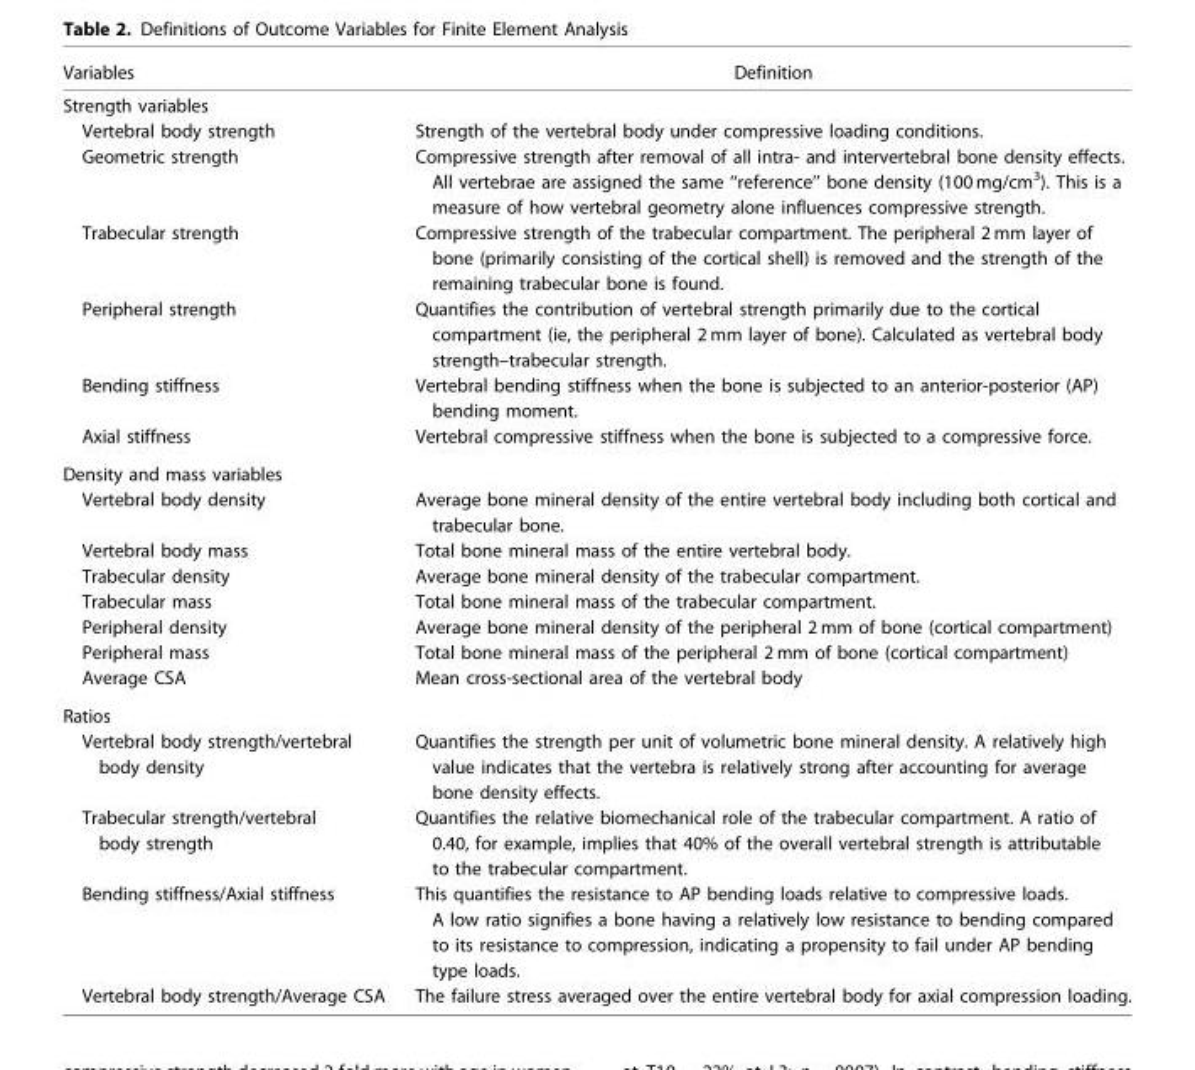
<table><thead><tr><td>Variables</td><td>Definition</td></tr></thead><tbody><tr><td colspan="2">Strength variables</td></tr><tr><td>Vertebral body strength</td><td>Strength of the vertebral body under compressive loading conditions.</td></tr><tr><td>Geometric strength</td><td>Compressive strength after removal of all intra- and intervertebral bone density effects. All vertebrae are assigned the same ‘‘reference’’ bone density (100 mg/cm3). This is a measure of how vertebral geometry alone influences compressive strength.</td></tr><tr><td>Trabecular strength</td><td>Compressive strength of the trabecular compartment. The peripheral 2 mm layer of bone (primarily consisting of the cortical shell) is removed and the strength of the remaining trabecular bone is found.</td></tr><tr><td>Peripheral strength</td><td>Quantifies the contribution of vertebral strength primarily due to the cortical compartment (ie, the peripheral 2 mm layer of bone). Calculated as vertebral body strength–trabecular strength.</td></tr><tr><td>Bending stiffness</td><td>Vertebral bending stiffness when the bone is subjected to an anterior-posterior (AP) bending moment.</td></tr><tr><td>Axial stiffness</td><td>Vertebral compressive stiffness when the bone is subjected to a compressive force.</td></tr><tr><td colspan="2">Density and mass variables</td></tr><tr><td>Vertebral body density</td><td>Average bone mineral density of the entire vertebral body including both cortical and trabecular bone.</td></tr><tr><td>Vertebral body mass</td><td>Total bone mineral mass of the entire vertebral body.</td></tr><tr><td>Trabecular density</td><td>Average bone mineral density of the trabecular compartment.</td></tr><tr><td>Trabecular mass</td><td>Total bone mineral mass of the trabecular compartment.</td></tr><tr><td>Peripheral density</td><td>Average bone mineral density of the peripheral 2 mm of bone (cortical compartment)</td></tr><tr><td>Peripheral mass</td><td>Total bone mineral mass of the peripheral 2 mm of bone (cortical compartment)</td></tr><tr><td>Average CSA</td><td>Mean cross-sectional area of the vertebral body</td></tr><tr><td colspan="2">Ratios</td></tr><tr><td>Vertebral body strength/vertebral body density</td><td>Quantifies the strength per unit of volumetric bone mineral density. A relatively high value indicates that the vertebra is relatively strong after accounting for average bone density effects.</td></tr><tr><td>Trabecular strength/vertebral body strength</td><td>Quantifies the relative biomechanical role of the trabecular compartment. A ratio of 0.40, for example, implies that 40% of the overall vertebral strength is attributable to the trabecular compartment.</td></tr><tr><td>Bending stiffness/Axial stiffness</td><td>This quantifies the resistance to AP bending loads relative to compressive loads. A low ratio signifies a bone having a relatively low resistance to bending compared to its resistance to compression, indicating a propensity to fail under AP bending type loads.</td></tr><tr><td>Vertebral body strength/Average CSA</td><td>The failure stress averaged over the entire vertebral body for axial compression loading.</td></tr></tbody></table>